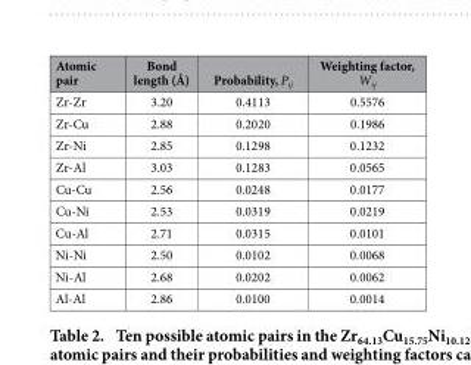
<table><thead><tr><td>Atomic pair</td><td>Bond length (Å)</td><td>Probability, P<sub>ij</sub></td><td>Weighting factor, W<sub>ij</sub></td></tr></thead><tbody><tr><td>Zr-Zr</td><td>3.20</td><td>0.4113</td><td>0.5576</td></tr><tr><td>Zr-Cu</td><td>2.88</td><td>0.2020</td><td>0.1986</td></tr><tr><td>Zr-Ni</td><td>2.85</td><td>0.1298</td><td>0.1232</td></tr><tr><td>Zr-Al</td><td>3.03</td><td>0.1283</td><td>0.0565</td></tr><tr><td>Cu-Cu</td><td>2.56</td><td>0.0248</td><td>0.0177</td></tr><tr><td>Cu-Ni</td><td>2.53</td><td>0.0319</td><td>0.0219</td></tr><tr><td>Cu-Al</td><td>2.71</td><td>0.0315</td><td>0.0101</td></tr><tr><td>Ni-Ni</td><td>2.50</td><td>0.0102</td><td>0.0068</td></tr><tr><td>Ni-Al</td><td>2.68</td><td>0.0202</td><td>0.0062</td></tr><tr><td>Al-Al</td><td>2.86</td><td>0.0100</td><td>0.0014</td></tr></tbody></table>